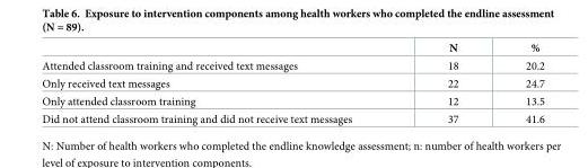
<table><thead><tr><td></td><td>N</td><td>%</td></tr></thead><tbody><tr><td>Attended classroom training and received text messages</td><td>18</td><td>20.2</td></tr><tr><td>Only received text messages</td><td>22</td><td>24.7</td></tr><tr><td>Only attended classroom training</td><td>12</td><td>13.5</td></tr><tr><td>Did not attend classroom training and did not receive text messages</td><td>37</td><td>41.6</td></tr></tbody></table>